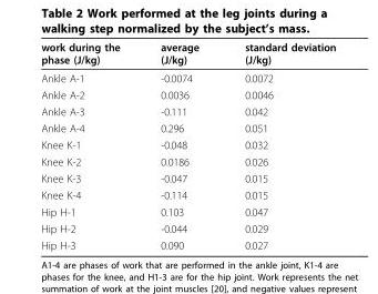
<table><thead><tr><td>work during the phase (J/kg)</td><td>average (J/kg)</td><td>standard deviation (J/kg)</td></tr></thead><tbody><tr><td>Ankle A-1</td><td>-0.0074</td><td>0.0072</td></tr><tr><td>Ankle A-2</td><td>0.0036</td><td>0.0046</td></tr><tr><td>Ankle A-3</td><td>-0.111</td><td>0.042</td></tr><tr><td>Ankle A-4</td><td>0.296</td><td>0.051</td></tr><tr><td>Knee K-1</td><td>-0.048</td><td>0.032</td></tr><tr><td>Knee K-2</td><td>0.0186</td><td>0.026</td></tr><tr><td>Knee K-3</td><td>-0.047</td><td>0.015</td></tr><tr><td>Knee K-4</td><td>-0.114</td><td>0.015</td></tr><tr><td>Hip H-1</td><td>0.103</td><td>0.047</td></tr><tr><td>Hip H-2</td><td>-0.044</td><td>0.029</td></tr><tr><td>Hip H-3</td><td>0.090</td><td>0.027</td></tr></tbody></table>